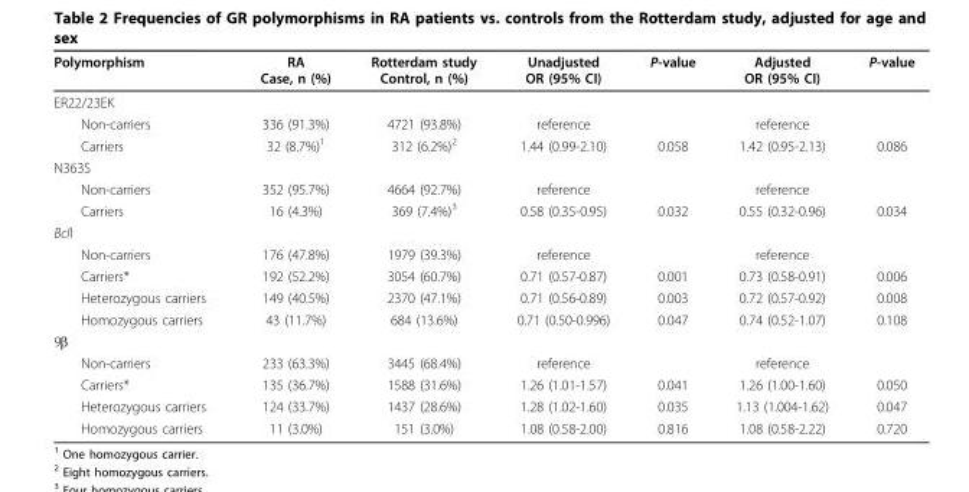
<table><thead><tr><td>Polymorphism</td><td>RA Case, n (%)</td><td>Rotterdam study Control, n (%)</td><td>Unadjusted OR (95% CI)</td><td>P-value</td><td>Adjusted OR (95% CI)</td><td>P-value</td></tr></thead><tbody><tr><td colspan="7">ER22/23EK</td></tr><tr><td>Non-carriers</td><td>336 (91.3%)</td><td>4721 (93.8%)</td><td>reference</td><td></td><td>reference</td><td></td></tr><tr><td>Carriers</td><td>32 (8.7%)<sup>1</sup></td><td>312 (6.2%)<sup>2</sup></td><td>1.44 (0.99-2.10)</td><td>0.058</td><td>1.42 (0.95-2.13)</td><td>0.086</td></tr><tr><td colspan="7">N363S</td></tr><tr><td>Non-carriers</td><td>352 (95.7%)</td><td>4664 (92.7%)</td><td>reference</td><td></td><td>reference</td><td></td></tr><tr><td>Carriers</td><td>16 (4.3%)</td><td>369 (7.4%)<sup>3</sup></td><td>0.58 (0.35-0.95)</td><td>0.032</td><td>0.55 (0.32-0.96)</td><td>0.034</td></tr><tr><td colspan="7">BclI</td></tr><tr><td>Non-carriers</td><td>176 (47.8%)</td><td>1979 (39.3%)</td><td>reference</td><td></td><td>reference</td><td></td></tr><tr><td>Carriers*</td><td>192 (52.2%)</td><td>3054 (60.7%)</td><td>0.71 (0.57-0.87)</td><td>0.001</td><td>0.73 (0.58-0.91)</td><td>0.006</td></tr><tr><td>Heterozygous carriers</td><td>149 (40.5%)</td><td>2370 (47.1%)</td><td>0.71 (0.56-0.89)</td><td>0.003</td><td>0.72 (0.57-0.92)</td><td>0.008</td></tr><tr><td>Homozygous carriers</td><td>43 (11.7%)</td><td>684 (13.6%)</td><td>0.71 (0.50-0.996)</td><td>0.047</td><td>0.74 (0.52-1.07)</td><td>0.108</td></tr><tr><td colspan="7">9β</td></tr><tr><td>Non-carriers</td><td>233 (63.3%)</td><td>3445 (68.4%)</td><td>reference</td><td></td><td>reference</td><td></td></tr><tr><td>Carriers*</td><td>135 (36.7%)</td><td>1588 (31.6%)</td><td>1.26 (1.01-1.57)</td><td>0.041</td><td>1.26 (1.00-1.60)</td><td>0.050</td></tr><tr><td>Heterozygous carriers</td><td>124 (33.7%)</td><td>1437 (28.6%)</td><td>1.28 (1.02-1.60)</td><td>0.035</td><td>1.13 (1.004-1.62)</td><td>0.047</td></tr><tr><td>Homozygous carriers</td><td>11 (3.0%)</td><td>151 (3.0%)</td><td>1.08 (0.58-2.00)</td><td>0.816</td><td>1.08 (0.58-2.22)</td><td>0.720</td></tr></tbody></table>